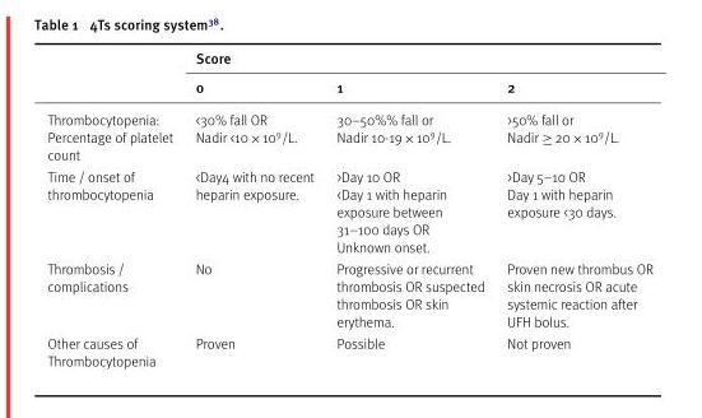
<table><thead><tr><td rowspan="2"></td><td colspan="3">Score</td></tr><tr><td>0</td><td>1</td><td>2</td></tr></thead><tbody><tr><td>Thrombocytopenia: Percentage of platelet count</td><td>&lt;30% fall OR Nadir &lt;10×10<sup>9</sup>/L.</td><td>30–50%% fall or Nadir 10-19×10<sup>9</sup>/L.</td><td>&gt;50% fall or Nadir ≥ 20×10<sup>9</sup>/L.</td></tr><tr><td>Time / onset of thrombocytopenia</td><td>&lt;Day4 with no recent heparin exposure.</td><td>&gt;Day 10 OR &lt;Day 1 with heparin exposure between 31–100 days OR Unknown onset.</td><td>&gt;Day 5–10 OR Day 1 with heparin exposure &lt;30 days.</td></tr><tr><td>Thrombosis / complications</td><td>No</td><td>Progressive or recurrent thrombosis OR suspected thrombosis OR skin erythema.</td><td>Proven new thrombus OR skin necrosis OR acute systemic reaction after UFH bolus.</td></tr><tr><td>Other causes of Thrombocytopenia</td><td>Proven</td><td>Possible</td><td>Not proven</td></tr></tbody></table>